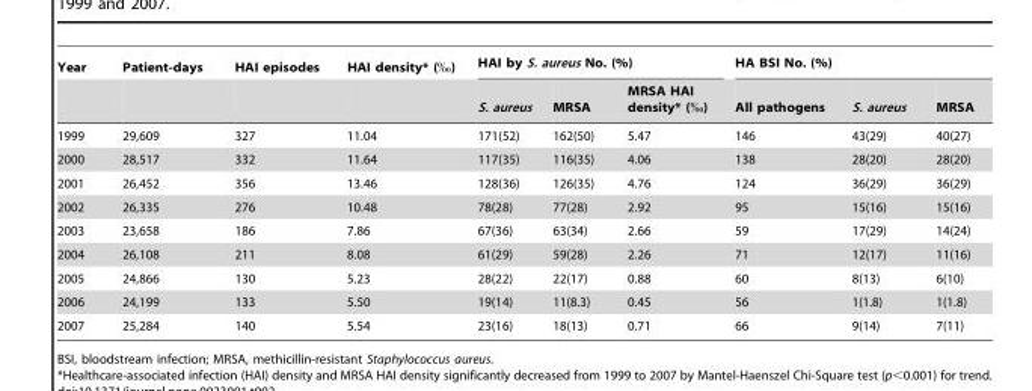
<table><thead><tr><td rowspan="2">Year</td><td rowspan="2">Patient-days</td><td rowspan="2">HAI episodes</td><td rowspan="2">HAI density* (‰)</td><td colspan="3">HAI by S. aureus No. (%)</td><td colspan="3">HA BSI No. (%)</td></tr><tr><td>S. aureus</td><td>MRSA</td><td>MRSA HAI density* (‰)</td><td>All pathogens</td><td>S. aureus</td><td>MRSA</td></tr></thead><tbody><tr><td>1999</td><td>29,609</td><td>327</td><td>11.04</td><td>171(52)</td><td>162(50)</td><td>5.47</td><td>146</td><td>43(29)</td><td>40(27)</td></tr><tr><td>2000</td><td>28,517</td><td>332</td><td>11.64</td><td>117(35)</td><td>116(35)</td><td>4.06</td><td>138</td><td>28(20)</td><td>28(20)</td></tr><tr><td>2001</td><td>26,452</td><td>356</td><td>13.46</td><td>128(36)</td><td>126(35)</td><td>4.76</td><td>124</td><td>36(29)</td><td>36(29)</td></tr><tr><td>2002</td><td>26,335</td><td>276</td><td>10.48</td><td>78(28)</td><td>77(28)</td><td>2.92</td><td>95</td><td>15(16)</td><td>15(16)</td></tr><tr><td>2003</td><td>23,658</td><td>186</td><td>7.86</td><td>67(36)</td><td>63(34)</td><td>2.66</td><td>59</td><td>17(29)</td><td>14(24)</td></tr><tr><td>2004</td><td>26,108</td><td>211</td><td>8.08</td><td>61(29)</td><td>59(28)</td><td>2.26</td><td>71</td><td>12(17)</td><td>11(16)</td></tr><tr><td>2005</td><td>24,866</td><td>130</td><td>5.23</td><td>28(22)</td><td>22(17)</td><td>0.88</td><td>60</td><td>8(13)</td><td>6(10)</td></tr><tr><td>2006</td><td>24,199</td><td>133</td><td>5.50</td><td>19(14)</td><td>11(8.3)</td><td>0.45</td><td>56</td><td>1(1.8)</td><td>1(1.8)</td></tr><tr><td>2007</td><td>25,284</td><td>140</td><td>5.54</td><td>23(16)</td><td>18(13)</td><td>0.71</td><td>66</td><td>9(14)</td><td>7(11)</td></tr></tbody></table>